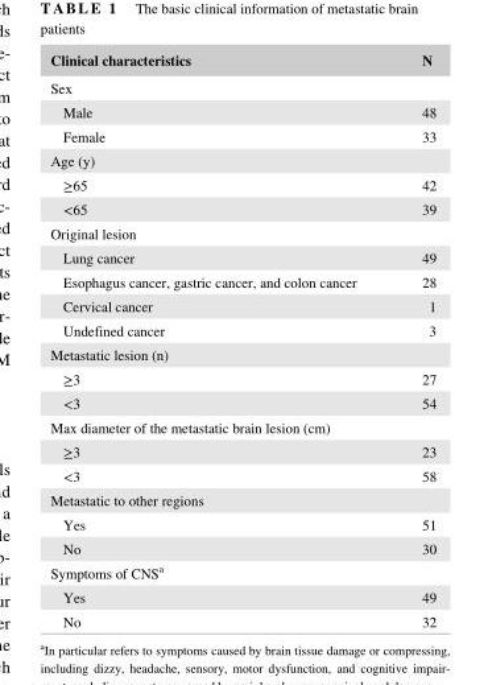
<table><thead><tr><td>Clinical characteristics</td><td>N</td></tr></thead><tbody><tr><td colspan="2">Sex</td></tr><tr><td>Male</td><td>48</td></tr><tr><td>Female</td><td>33</td></tr><tr><td colspan="2">Age (y)</td></tr><tr><td>≥65</td><td>42</td></tr><tr><td>&lt;65</td><td>39</td></tr><tr><td colspan="2">Original lesion</td></tr><tr><td>Lung cancer</td><td>49</td></tr><tr><td>Esophagus cancer, gastric cancer, and colon cancer</td><td>28</td></tr><tr><td>Cervical cancer</td><td>1</td></tr><tr><td>Undefined cancer</td><td>3</td></tr><tr><td colspan="2">Metastatic lesion (n)</td></tr><tr><td>≥3</td><td>27</td></tr><tr><td>&lt;3</td><td>54</td></tr><tr><td colspan="2">Max diameter of the metastatic brain lesion (cm)</td></tr><tr><td>≥3</td><td>23</td></tr><tr><td>&lt;3</td><td>58</td></tr><tr><td colspan="2">Metastatic to other regions</td></tr><tr><td>Yes</td><td>51</td></tr><tr><td>No</td><td>30</td></tr><tr><td colspan="2">Symptoms of CNS<sup>a</sup></td></tr><tr><td>Yes</td><td>49</td></tr><tr><td>No</td><td>32</td></tr></tbody></table>